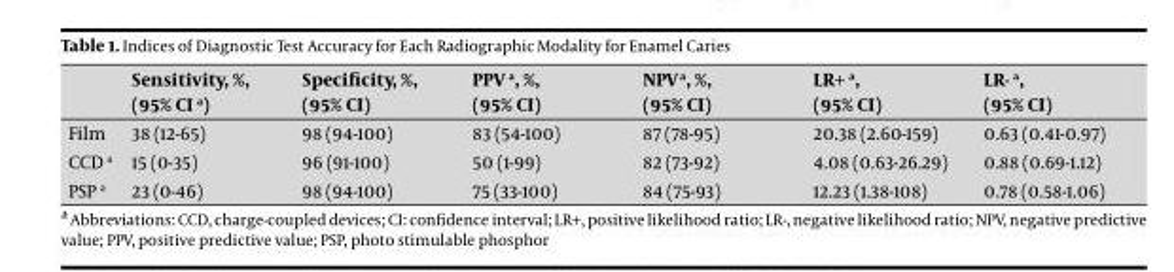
<table><thead><tr><td></td><td>Sensitivity, %, (95% CI a)</td><td>Specificity, %, (95% CI)</td><td>PPV a, %, (95% CI)</td><td>NPV a, %, (95% CI)</td><td>LR+ a, (95% CI)</td><td>LR- a, (95% CI)</td></tr></thead><tbody><tr><td>Film</td><td>38 (12-65)</td><td>98 (94-100)</td><td>83 (54-100)</td><td>87 (78-95)</td><td>20.38 (2.60-159)</td><td>0.63 (0.41-0.97)</td></tr><tr><td>CCD a</td><td>15 (0-35)</td><td>96 (91-100)</td><td>50 (1-99)</td><td>82 (73-92)</td><td>4.08 (0.63-26.29)</td><td>0.88 (0.69-1.12)</td></tr><tr><td>PSP a</td><td>23 (0-46)</td><td>98 (94-100)</td><td>75 (33-100)</td><td>84 (75-93)</td><td>12.23 (1.38-108)</td><td>0.78 (0.58-1.06)</td></tr></tbody></table>